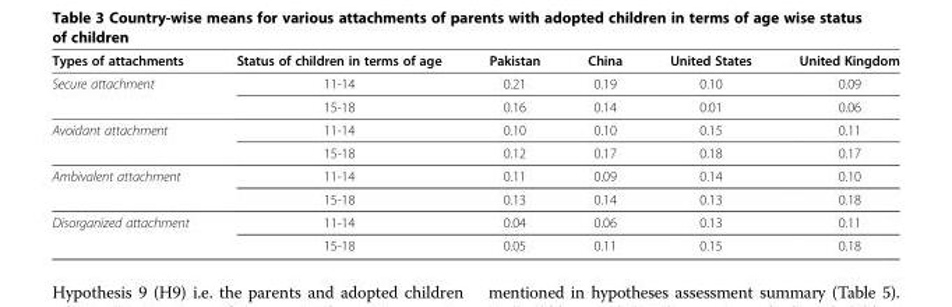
<table><thead><tr><td>Types of attachments</td><td>Status of children in terms of age</td><td>Pakistan</td><td>China</td><td>United States</td><td>United Kingdom</td></tr></thead><tbody><tr><td rowspan="2">Secure attachment</td><td>11-14</td><td>0.21</td><td>0.19</td><td>0.10</td><td>0.09</td></tr><tr><td>15-18</td><td>0.16</td><td>0.14</td><td>0.01</td><td>0.06</td></tr><tr><td rowspan="2">Avoidant attachment</td><td>11-14</td><td>0.10</td><td>0.10</td><td>0.15</td><td>0.11</td></tr><tr><td>15-18</td><td>0.12</td><td>0.17</td><td>0.18</td><td>0.17</td></tr><tr><td rowspan="2">Ambivalent attachment</td><td>11-14</td><td>0.11</td><td>0.09</td><td>0.14</td><td>0.10</td></tr><tr><td>15-18</td><td>0.13</td><td>0.14</td><td>0.13</td><td>0.18</td></tr><tr><td rowspan="2">Disorganized attachment</td><td>11-14</td><td>0.04</td><td>0.06</td><td>0.13</td><td>0.11</td></tr><tr><td>15-18</td><td>0.05</td><td>0.11</td><td>0.15</td><td>0.18</td></tr></tbody></table>